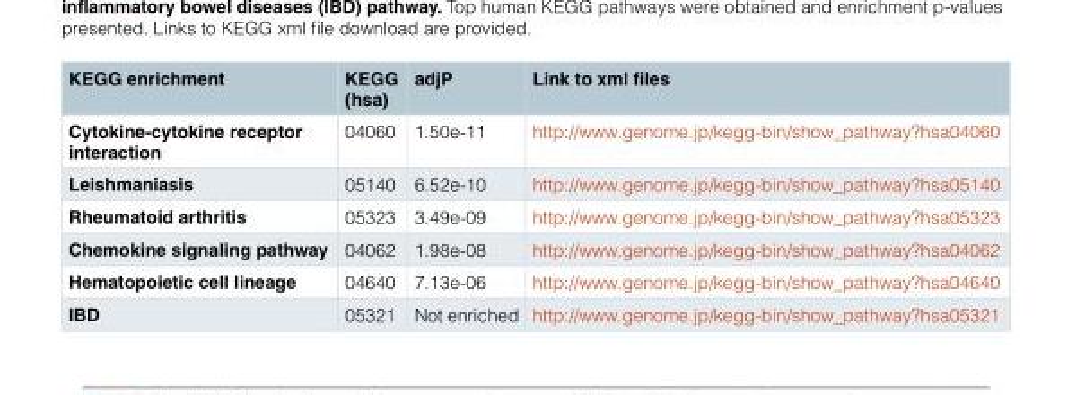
<table><thead><tr><td>KEGG enrichment</td><td>KEGG (hsa)</td><td>adjP</td><td>Link to xml files</td></tr></thead><tbody><tr><td>Cytokine-cytokine receptor interaction</td><td>04060</td><td>1.50e-11</td><td>http://www.genome.jp/kegg-bin/show_pathway?hsa04060</td></tr><tr><td>Leishmaniasis</td><td>05140</td><td>6.52e-10</td><td>http://www.genome.jp/kegg-bin/show_pathway?hsa05140</td></tr><tr><td>Rheumatoid arthritis</td><td>05323</td><td>3.49e-09</td><td>http://www.genome.jp/kegg-bin/show_pathway?hsa05323</td></tr><tr><td>Chemokine signaling pathway</td><td>04062</td><td>1.98e-08</td><td>http://www.genome.jp/kegg-bin/show_pathway?hsa04062</td></tr><tr><td>Hematopoietic cell lineage</td><td>04640</td><td>7.13e-06</td><td>http://www.genome.jp/kegg-bin/show_pathway?hsa04640</td></tr><tr><td>IBD</td><td>05321</td><td>Not enriched</td><td>http://www.genome.jp/kegg-bin/show_pathway?hsa05321</td></tr></tbody></table>